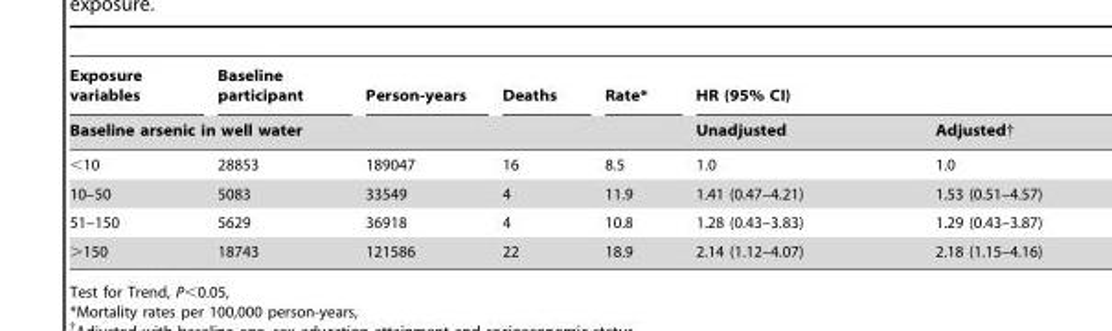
<table><thead><tr><td>Exposure variables</td><td>Baseline participant</td><td>Person-years</td><td>Deaths</td><td>Rate*</td><td colspan="2">HR (95% CI)</td></tr><tr><td colspan="5">Baseline arsenic in well water</td><td>Unadjusted</td><td>Adjusted†</td></tr></thead><tbody><tr><td>&lt;10</td><td>28853</td><td>189047</td><td>16</td><td>8.5</td><td>1.0</td><td>1.0</td></tr><tr><td>10–50</td><td>5083</td><td>33549</td><td>4</td><td>11.9</td><td>1.41 (0.47–4.21)</td><td>1.53 (0.51–4.57)</td></tr><tr><td>51–150</td><td>5629</td><td>36918</td><td>4</td><td>10.8</td><td>1.28 (0.43–3.83)</td><td>1.29 (0.43–3.87)</td></tr><tr><td>&gt;150</td><td>18743</td><td>121586</td><td>22</td><td>18.9</td><td>2.14 (1.12–4.07)</td><td>2.18 (1.15–4.16)</td></tr></tbody></table>